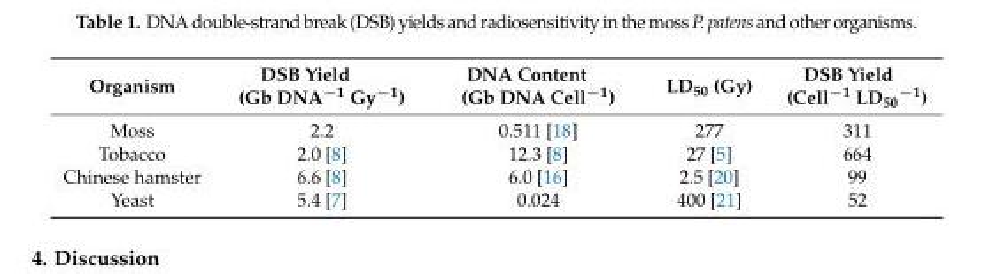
<table><thead><tr><td>Organism</td><td>DSB Yield (Gb DNA<sup>−1</sup> Gy<sup>−1</sup>)</td><td>DNA Content (Gb DNA Cell<sup>−1</sup>)</td><td>LD<sub>50</sub> (Gy)</td><td>DSB Yield (Cell<sup>−1</sup> LD<sub>50</sub><sup>−1</sup>)</td></tr></thead><tbody><tr><td>Moss</td><td>2.2</td><td>0.511 [18]</td><td>277</td><td>311</td></tr><tr><td>Tobacco</td><td>2.0 [8]</td><td>12.3 [8]</td><td>27 [5]</td><td>664</td></tr><tr><td>Chinese hamster</td><td>6.6 [8]</td><td>6.0 [16]</td><td>2.5 [20]</td><td>99</td></tr><tr><td>Yeast</td><td>5.4 [7]</td><td>0.024</td><td>400 [21]</td><td>52</td></tr></tbody></table>